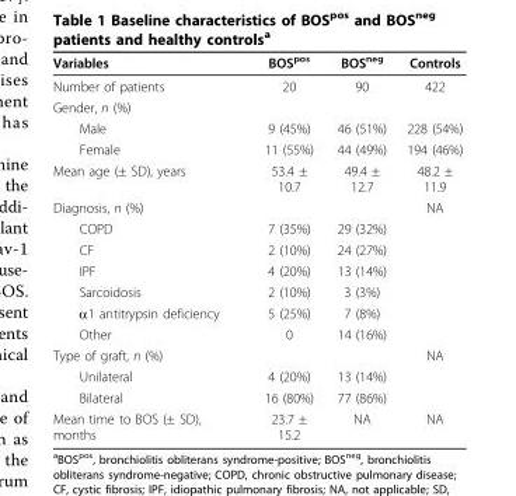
<table><thead><tr><td>Variables</td><td>BOS<sup>pos</sup></td><td>BOS<sup>neg</sup></td><td>Controls</td></tr></thead><tbody><tr><td>Number of patients</td><td>20</td><td>90</td><td>422</td></tr><tr><td colspan="4">Gender, n (%)</td></tr><tr><td>Male</td><td>9 (45%)</td><td>46 (51%)</td><td>228 (54%)</td></tr><tr><td>Female</td><td>11 (55%)</td><td>44 (49%)</td><td>194 (46%)</td></tr><tr><td>Mean age (± SD), years</td><td>53.4 ± 10.7</td><td>49.4 ± 12.7</td><td>48.2 ± 11.9</td></tr><tr><td>Diagnosis, n (%)</td><td></td><td></td><td>NA</td></tr><tr><td>COPD</td><td>7 (35%)</td><td>29 (32%)</td><td></td></tr><tr><td>CF</td><td>2 (10%)</td><td>24 (27%)</td><td></td></tr><tr><td>IPF</td><td>4 (20%)</td><td>13 (14%)</td><td></td></tr><tr><td>Sarcoidosis</td><td>2 (10%)</td><td>3 (3%)</td><td></td></tr><tr><td>α1 antitrypsin deficiency</td><td>5 (25%)</td><td>7 (8%)</td><td></td></tr><tr><td>Other</td><td>0</td><td>14 (16%)</td><td></td></tr><tr><td>Type of graft, n (%)</td><td></td><td></td><td>NA</td></tr><tr><td>Unilateral</td><td>4 (20%)</td><td>13 (14%)</td><td></td></tr><tr><td>Bilateral</td><td>16 (80%)</td><td>77 (86%)</td><td></td></tr><tr><td>Mean time to BOS (± SD), months</td><td>23.7 ± 15.2</td><td>NA</td><td>NA</td></tr></tbody></table>